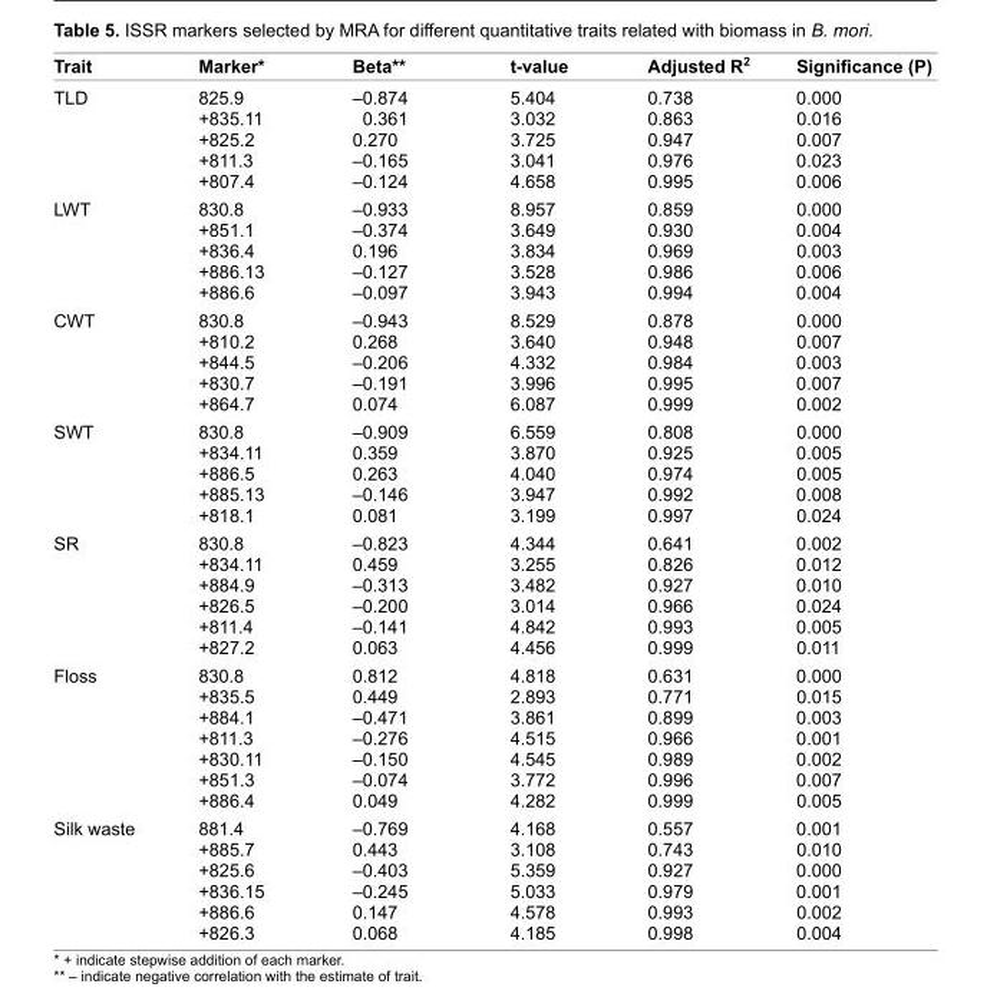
<table><thead><tr><td>Trait</td><td>Marker*</td><td>Beta**</td><td>t-value</td><td>Adjusted R<sup>2</sup></td><td>Signifi cance (P)</td></tr></thead><tbody><tr><td rowspan="5">TLD</td><td>825.9</td><td>–0.874</td><td>5.404</td><td>0.738</td><td>0.000</td></tr><tr><td>+835.11</td><td>0.361</td><td>3.032</td><td>0.863</td><td>0.016</td></tr><tr><td>+825.2</td><td>0.270</td><td>3.725</td><td>0.947</td><td>0.007</td></tr><tr><td>+811.3</td><td>–0.165</td><td>3.041</td><td>0.976</td><td>0.023</td></tr><tr><td>+807.4</td><td>–0.124</td><td>4.658</td><td>0.995</td><td>0.006</td></tr><tr><td rowspan="5">LWT</td><td>830.8</td><td>–0.933</td><td>8.957</td><td>0.859</td><td>0.000</td></tr><tr><td>+851.1</td><td>–0.374</td><td>3.649</td><td>0.930</td><td>0.004</td></tr><tr><td>+836.4</td><td>0.196</td><td>3.834</td><td>0.969</td><td>0.003</td></tr><tr><td>+886.13</td><td>–0.127</td><td>3.528</td><td>0.986</td><td>0.006</td></tr><tr><td>+886.6</td><td>–0.097</td><td>3.943</td><td>0.994</td><td>0.004</td></tr><tr><td rowspan="5">CWT</td><td>830.8</td><td>–0.943</td><td>8.529</td><td>0.878</td><td>0.000</td></tr><tr><td>+810.2</td><td>0.268</td><td>3.640</td><td>0.948</td><td>0.007</td></tr><tr><td>+844.5</td><td>–0.206</td><td>4.332</td><td>0.984</td><td>0.003</td></tr><tr><td>+830.7</td><td>–0.191</td><td>3.996</td><td>0.995</td><td>0.007</td></tr><tr><td>+864.7</td><td>0.074</td><td>6.087</td><td>0.999</td><td>0.002</td></tr><tr><td rowspan="5">SWT</td><td>830.8</td><td>–0.909</td><td>6.559</td><td>0.808</td><td>0.000</td></tr><tr><td>+834.11</td><td>0.359</td><td>3.870</td><td>0.925</td><td>0.005</td></tr><tr><td>+886.5</td><td>0.263</td><td>4.040</td><td>0.974</td><td>0.005</td></tr><tr><td>+885.13</td><td>–0.146</td><td>3.947</td><td>0.992</td><td>0.008</td></tr><tr><td>+818.1</td><td>0.081</td><td>3.199</td><td>0.997</td><td>0.024</td></tr><tr><td rowspan="6">SR</td><td>830.8</td><td>–0.823</td><td>4.344</td><td>0.641</td><td>0.002</td></tr><tr><td>+834.11</td><td>0.459</td><td>3.255</td><td>0.826</td><td>0.012</td></tr><tr><td>+884.9</td><td>–0.313</td><td>3.482</td><td>0.927</td><td>0.010</td></tr><tr><td>+826.5</td><td>–0.200</td><td>3.014</td><td>0.966</td><td>0.024</td></tr><tr><td>+811.4</td><td>–0.141</td><td>4.842</td><td>0.993</td><td>0.005</td></tr><tr><td>+827.2</td><td>0.063</td><td>4.456</td><td>0.999</td><td>0.011</td></tr><tr><td rowspan="7">Floss</td><td>830.8</td><td>0.812</td><td>4.818</td><td>0.631</td><td>0.000</td></tr><tr><td>+835.5</td><td>0.449</td><td>2.893</td><td>0.771</td><td>0.015</td></tr><tr><td>+884.1</td><td>–0.471</td><td>3.861</td><td>0.899</td><td>0.003</td></tr><tr><td>+811.3</td><td>–0.276</td><td>4.515</td><td>0.966</td><td>0.001</td></tr><tr><td>+830.11</td><td>–0.150</td><td>4.545</td><td>0.989</td><td>0.002</td></tr><tr><td>+851.3</td><td>–0.074</td><td>3.772</td><td>0.996</td><td>0.007</td></tr><tr><td>+886.4</td><td>0.049</td><td>4.282</td><td>0.999</td><td>0.005</td></tr><tr><td rowspan="6">Silk waste</td><td>881.4</td><td>–0.769</td><td>4.168</td><td>0.557</td><td>0.001</td></tr><tr><td>+885.7</td><td>0.443</td><td>3.108</td><td>0.743</td><td>0.010</td></tr><tr><td>+825.6</td><td>–0.403</td><td>5.359</td><td>0.927</td><td>0.000</td></tr><tr><td>+836.15</td><td>–0.245</td><td>5.033</td><td>0.979</td><td>0.001</td></tr><tr><td>+886.6</td><td>0.147</td><td>4.578</td><td>0.993</td><td>0.002</td></tr><tr><td>+826.3</td><td>0.068</td><td>4.185</td><td>0.998</td><td>0.004</td></tr></tbody></table>